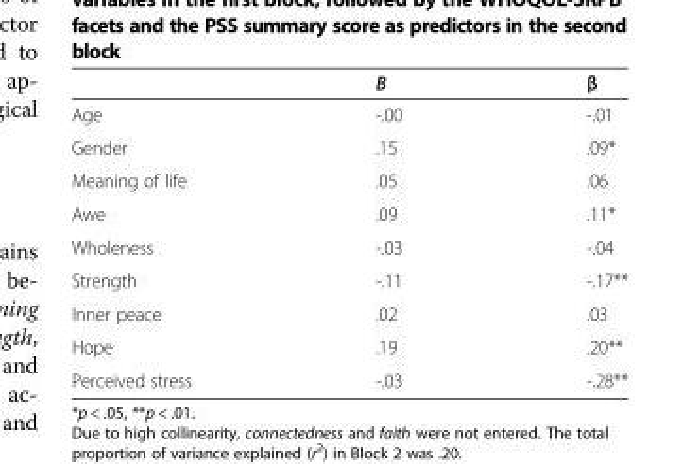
<table><thead><tr><td></td><td>B</td><td>β</td></tr></thead><tbody><tr><td>Age</td><td>-.00</td><td>-.01</td></tr><tr><td>Gender</td><td>.15</td><td>.09*</td></tr><tr><td>Meaning of life</td><td>.05</td><td>.06</td></tr><tr><td>Awe</td><td>.09</td><td>.11*</td></tr><tr><td>Wholeness</td><td>-.03</td><td>-.04</td></tr><tr><td>Strength</td><td>-.11</td><td>-.17**</td></tr><tr><td>Inner peace</td><td>.02</td><td>.03</td></tr><tr><td>Hope</td><td>.19</td><td>.20**</td></tr><tr><td>Perceived stress</td><td>-.03</td><td>-.28**</td></tr></tbody></table>